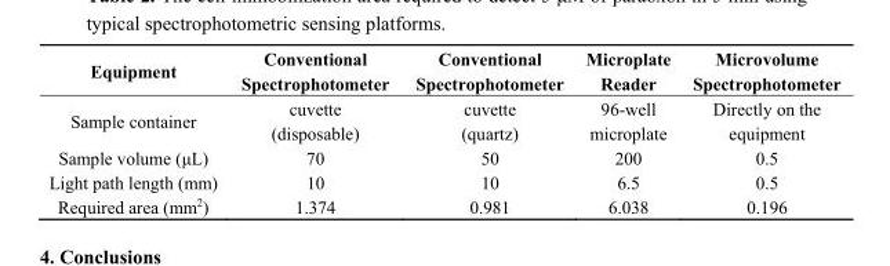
<table><thead><tr><td>Equipment</td><td>Conventional Spectrophotometer</td><td>Conventional Spectrophotometer</td><td>Microplate Reader</td><td>Microvolume Spectrophotometer</td></tr></thead><tbody><tr><td>Sample container</td><td>cuvette (disposable)</td><td>cuvette (quartz)</td><td>96-well microplate</td><td>Directly on the equipment</td></tr><tr><td>Sample volume (μL)</td><td>70</td><td>50</td><td>200</td><td>0.5</td></tr><tr><td>Light path length (mm)</td><td>10</td><td>10</td><td>6.5</td><td>0.5</td></tr><tr><td>Required area (mm<sup>2</sup>)</td><td>1.374</td><td>0.981</td><td>6.038</td><td>0.196</td></tr></tbody></table>